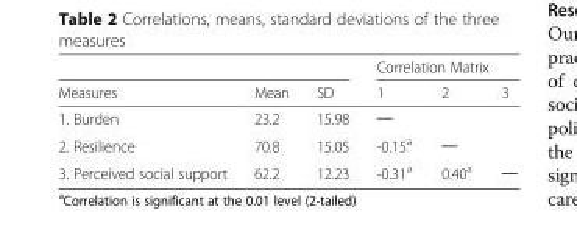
<table><thead><tr><td rowspan="2">Measures</td><td rowspan="2">Mean</td><td rowspan="2">SD</td><td colspan="3">Correlation Matrix</td></tr><tr><td>1</td><td>2</td><td>3</td></tr></thead><tbody><tr><td>1. Burden</td><td>23.2</td><td>15.98</td><td>─</td><td></td><td></td></tr><tr><td>2. Resilience</td><td>70.8</td><td>15.05</td><td>-0.15<sup>a</sup></td><td>─</td><td></td></tr><tr><td>3. Perceived social support</td><td>62.2</td><td>12.23</td><td>-0.31<sup>a</sup></td><td>0.40<sup>a</sup></td><td>─</td></tr></tbody></table>